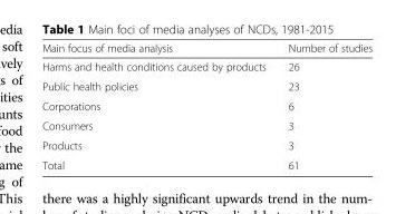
<table><thead><tr><td>Main focus of media analysis</td><td>Number of studies</td></tr></thead><tbody><tr><td>Harms and health conditions caused by products</td><td>26</td></tr><tr><td>Public health policies</td><td>23</td></tr><tr><td>Corporations</td><td>6</td></tr><tr><td>Consumers</td><td>3</td></tr><tr><td>Products</td><td>3</td></tr><tr><td>Total</td><td>61</td></tr></tbody></table>